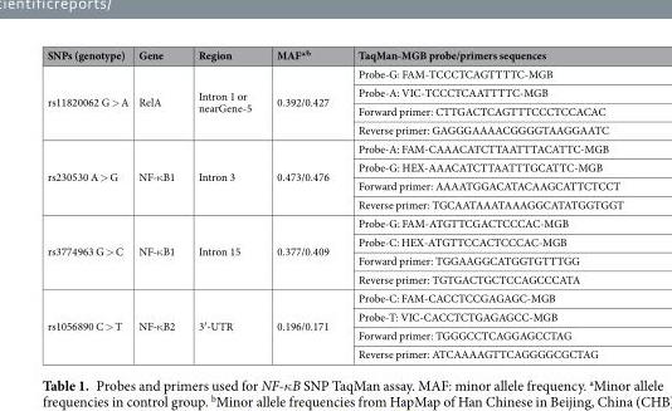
<table><thead><tr><td>SNPs (genotype)</td><td>Gene</td><td>Region</td><td>MAF<sup>a/b</sup></td><td>TaqMan-MGB probe/primers sequences</td></tr></thead><tbody><tr><td rowspan="4">rs11820062 G &gt; A</td><td rowspan="4">RelA</td><td rowspan="4">Intron 1 or nearGene-5</td><td rowspan="4">0.392/0.427</td><td>Probe-G: FAM-TCCCTCAGTTTTC-MGB</td></tr><tr><td>Probe-A: VIC-TCCCTCAATTTTC-MGB</td></tr><tr><td>Forward primer: CTTGACTCAGTTTCCCTCCACAC</td></tr><tr><td>Reverse primer: GAGGGAAAACGGGGTAAGGAATC</td></tr><tr><td rowspan="4">rs230530 A &gt; G</td><td rowspan="4">NF-κB1</td><td rowspan="4">Intron 3</td><td rowspan="4">0.473/0.476</td><td>Probe-A: FAM-CAAACATCTTAATTTACATTC-MGB</td></tr><tr><td>Probe-G: HEX-AAACATCTTAATTTGCATTC-MGB</td></tr><tr><td>Forward primer: AAAATGGACATACAAGCATTCTCCT</td></tr><tr><td>Reverse primer: TGCAATAAATAAAGGCATATGGTGGT</td></tr><tr><td rowspan="4">rs3774963 G &gt; C</td><td rowspan="4">NF-κB1</td><td rowspan="4">Intron 15</td><td rowspan="4">0.377/0.409</td><td>Probe-G: FAM-ATGTTCGACTCCCAC-MGB</td></tr><tr><td>Probe-C: HEX-ATGTTCCACTCCCAC-MGB</td></tr><tr><td>Forward primer: TGGAAGGCATGGTGTTTGG</td></tr><tr><td>Reverse primer: TGTGACTGCTCCAGCCCATA</td></tr><tr><td rowspan="4">rs1056890 C &gt; T</td><td rowspan="4">NF-κB2</td><td rowspan="4">3′-UTR</td><td rowspan="4">0.196/0.171</td><td>Probe-C: FAM-CACCTCCGAGAGC-MGB</td></tr><tr><td>Probe-T: VIC-CACCTCTGAGAGCC-MGB</td></tr><tr><td>Forward primer: TGGGCCTCAGGAGCCTAG</td></tr><tr><td>Reverse primer: ATCAAAAGTTCAGGGGCGCTAG</td></tr></tbody></table>